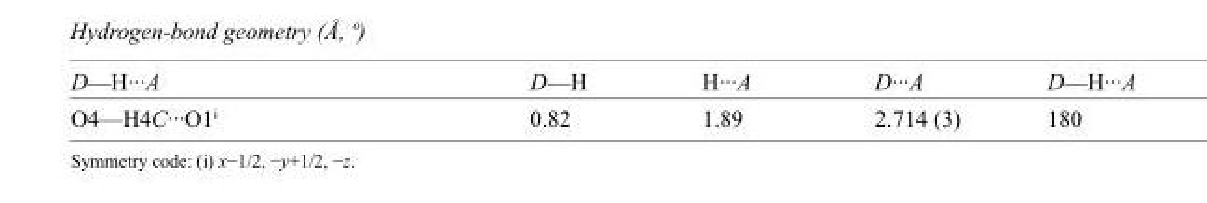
<table><tbody><tr><td>D—H···A</td><td>D—H</td><td>H···A</td><td>D···A</td><td>D—H···A</td></tr><tr><td>O4—H4C···O1<sup>i</sup></td><td>0.82</td><td>1.89</td><td>2.714 (3)</td><td>180</td></tr></tbody></table>